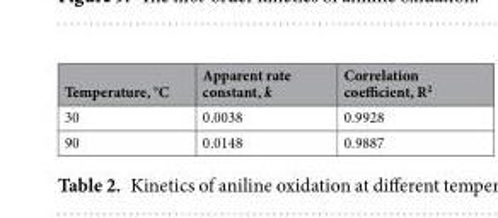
<table><thead><tr><td>Temperature, °C</td><td>Apparent rate constant, k</td><td>Correlation coefficient, R<sup>2</sup></td></tr></thead><tbody><tr><td>30</td><td>0.0038</td><td>0.9928</td></tr><tr><td>90</td><td>0.0148</td><td>0.9887</td></tr></tbody></table>